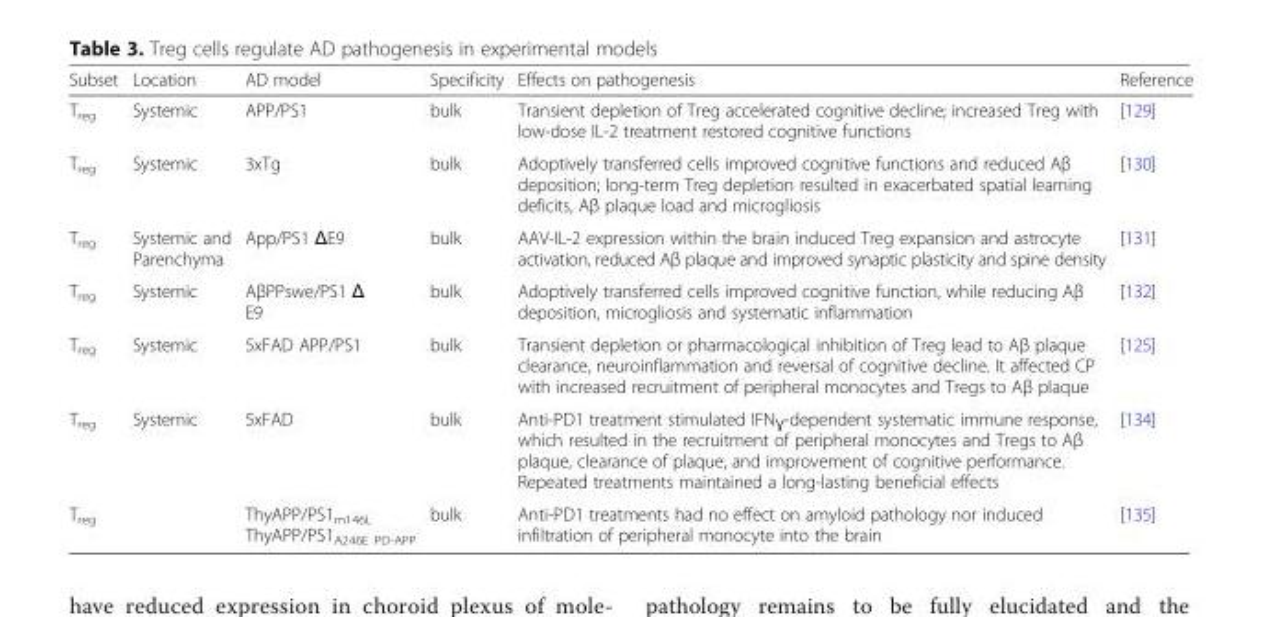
<table><thead><tr><td>Subset</td><td>Location</td><td>AD model</td><td>Specificity</td><td>Effects on pathogenesis</td><td>Reference</td></tr></thead><tbody><tr><td>T<sub>reg</sub></td><td>Systemic</td><td>APP/PS1</td><td>bulk</td><td>Transient depletion of Treg accelerated cognitive decline; increased Treg with low-dose IL-2 treatment restored cognitive functions</td><td>[129]</td></tr><tr><td>T<sub>reg</sub></td><td>Systemic</td><td>3xTg</td><td>bulk</td><td>Adoptively transferred cells improved cognitive functions and reduced Aβ deposition; long-term Treg depletion resulted in exacerbated spatial learning deficits, Aβ plaque load and microgliosis</td><td>[130]</td></tr><tr><td>T<sub>reg</sub></td><td>Systemic and Parenchyma</td><td>App/PS1 ΔE9</td><td>bulk</td><td>AAV-IL-2 expression within the brain induced Treg expansion and astrocyte activation, reduced Aβ plaque and improved synaptic plasticity and spine density</td><td>[131]</td></tr><tr><td>T<sub>reg</sub></td><td>Systemic</td><td>AβPPswe/PS1 Δ E9</td><td>bulk</td><td>Adoptively transferred cells improved cognitive function, while reducing Aβ deposition, microgliosis and systematic inflammation</td><td>[132]</td></tr><tr><td>T<sub>reg</sub></td><td>Systemic</td><td>5xFAD APP/PS1</td><td>bulk</td><td>Transient depletion or pharmacological inhibition of Treg lead to Aβ plaque clearance, neuroinflammation and reversal of cognitive decline. It affected CP with increased recruitment of peripheral monocytes and Tregs to Aβ plaque</td><td>[125]</td></tr><tr><td>T<sub>reg</sub></td><td>Systemic</td><td>5xFAD</td><td>bulk</td><td>Anti-PD1 treatment stimulated IFN<sub>Ɣ</sub>-dependent systematic immune response, which resulted in the recruitment of peripheral monocytes and Tregs to Aβ plaque, clearance of plaque, and improvement of cognitive performance. Repeated treatments maintained a long-lasting beneficial effects</td><td>[134]</td></tr><tr><td>T<sub>reg</sub></td><td></td><td>ThyAPP/PS1<sub>m146L</sub> ThyAPP/PS1<sub>A246E PD-APP</sub></td><td>bulk</td><td>Anti-PD1 treatments had no effect on amyloid pathology nor induced infiltration of peripheral monocyte into the brain</td><td>[135]</td></tr></tbody></table>